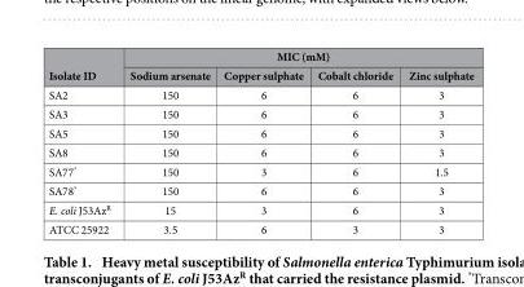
<table><thead><tr><td rowspan="2">Isolate ID</td><td colspan="4">MIC (mM)</td></tr><tr><td>Sodium arsenate</td><td>Copper sulphate</td><td>Cobalt chloride</td><td>Zinc sulphate</td></tr></thead><tbody><tr><td>SA2</td><td>150</td><td>6</td><td>6</td><td>3</td></tr><tr><td>SA3</td><td>150</td><td>6</td><td>6</td><td>3</td></tr><tr><td>SA5</td><td>150</td><td>6</td><td>6</td><td>3</td></tr><tr><td>SA8</td><td>150</td><td>6</td><td>6</td><td>3</td></tr><tr><td>SA77*</td><td>150</td><td>3</td><td>6</td><td>1.5</td></tr><tr><td>SA78*</td><td>150</td><td>6</td><td>6</td><td>3</td></tr><tr><td>E. coli J53Az<sup>R</sup></td><td>15</td><td>3</td><td>6</td><td>3</td></tr><tr><td>ATCC 25922</td><td>3.5</td><td>6</td><td>3</td><td>3</td></tr></tbody></table>